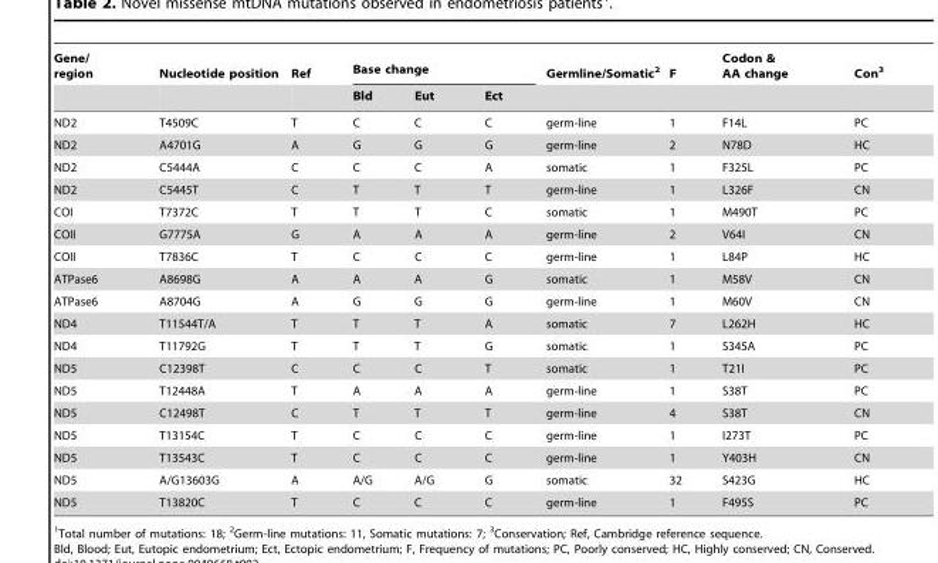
<table><thead><tr><td rowspan="2">Gene/ region</td><td rowspan="2">Nucleotide position</td><td rowspan="2">Ref</td><td colspan="3">Base change</td><td rowspan="2">Germline/Somatic<sup>2</sup></td><td rowspan="2">F</td><td rowspan="2">Codon &amp; AA change</td><td rowspan="2">Con<sup>3</sup></td></tr><tr><td>Bld</td><td>Eut</td><td>Ect</td></tr></thead><tbody><tr><td>ND2</td><td>T4509C</td><td>T</td><td>C</td><td>C</td><td>C</td><td>germ-line</td><td>1</td><td>F14L</td><td>PC</td></tr><tr><td>ND2</td><td>A4701G</td><td>A</td><td>G</td><td>G</td><td>G</td><td>germ-line</td><td>2</td><td>N78D</td><td>HC</td></tr><tr><td>ND2</td><td>C5444A</td><td>C</td><td>C</td><td>C</td><td>A</td><td>somatic</td><td>1</td><td>F325L</td><td>PC</td></tr><tr><td>ND2</td><td>C5445T</td><td>C</td><td>T</td><td>T</td><td>T</td><td>germ-line</td><td>1</td><td>L326F</td><td>CN</td></tr><tr><td>COI</td><td>T7372C</td><td>T</td><td>T</td><td>T</td><td>C</td><td>somatic</td><td>1</td><td>M490T</td><td>PC</td></tr><tr><td>COII</td><td>G7775A</td><td>G</td><td>A</td><td>A</td><td>A</td><td>germ-line</td><td>2</td><td>V64I</td><td>CN</td></tr><tr><td>COII</td><td>T7836C</td><td>T</td><td>C</td><td>C</td><td>C</td><td>germ-line</td><td>1</td><td>L84P</td><td>HC</td></tr><tr><td>ATPase6</td><td>A8698G</td><td>A</td><td>A</td><td>A</td><td>G</td><td>somatic</td><td>1</td><td>M58V</td><td>CN</td></tr><tr><td>ATPase6</td><td>A8704G</td><td>A</td><td>G</td><td>G</td><td>G</td><td>germ-line</td><td>1</td><td>M60V</td><td>CN</td></tr><tr><td>ND4</td><td>T11544T/A</td><td>T</td><td>T</td><td>T</td><td>A</td><td>somatic</td><td>7</td><td>L262H</td><td>HC</td></tr><tr><td>ND4</td><td>T11792G</td><td>T</td><td>T</td><td>T</td><td>G</td><td>somatic</td><td>1</td><td>S345A</td><td>PC</td></tr><tr><td>ND5</td><td>C12398T</td><td>C</td><td>C</td><td>C</td><td>T</td><td>somatic</td><td>1</td><td>T21I</td><td>PC</td></tr><tr><td>ND5</td><td>T12448A</td><td>T</td><td>A</td><td>A</td><td>A</td><td>germ-line</td><td>1</td><td>S38T</td><td>PC</td></tr><tr><td>ND5</td><td>C12498T</td><td>C</td><td>T</td><td>T</td><td>T</td><td>germ-line</td><td>4</td><td>S38T</td><td>CN</td></tr><tr><td>ND5</td><td>T13154C</td><td>T</td><td>C</td><td>C</td><td>C</td><td>germ-line</td><td>1</td><td>I273T</td><td>PC</td></tr><tr><td>ND5</td><td>T13543C</td><td>T</td><td>C</td><td>C</td><td>C</td><td>germ-line</td><td>1</td><td>Y403H</td><td>CN</td></tr><tr><td>ND5</td><td>A/G13603G</td><td>A</td><td>A/G</td><td>A/G</td><td>G</td><td>somatic</td><td>32</td><td>S423G</td><td>HC</td></tr><tr><td>ND5</td><td>T13820C</td><td>T</td><td>C</td><td>C</td><td>C</td><td>germ-line</td><td>1</td><td>F495S</td><td>PC</td></tr></tbody></table>